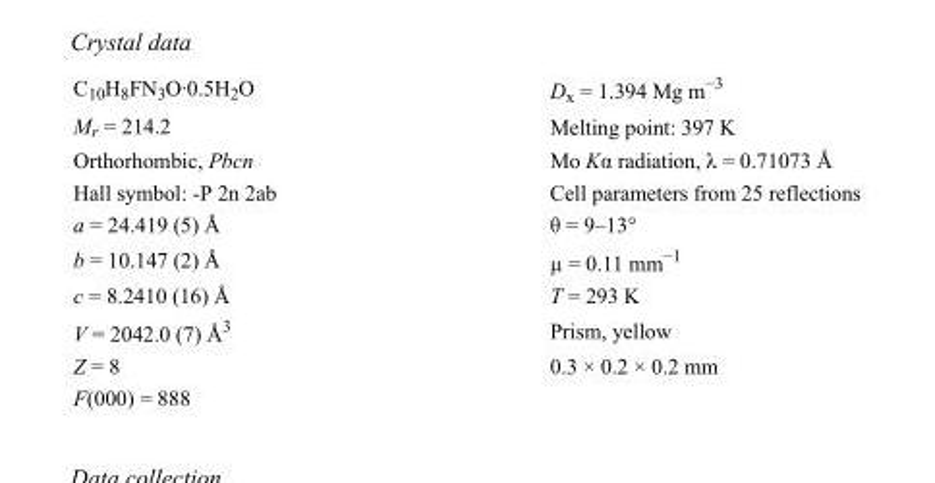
<table><tbody><tr><td>C<sub>10</sub>H<sub>8</sub>FN<sub>3</sub>O·0.5H<sub>2</sub>O</td><td>D<sub>x</sub> = 1.394 Mg m<sup>−3</sup></td></tr><tr><td>M<sub>r</sub> = 214.2</td><td>Melting point: 397 K</td></tr><tr><td>Orthorhombic, Pbcn</td><td>Mo Kα radiation, λ = 0.71073 Å</td></tr><tr><td>Hall symbol: -P 2n 2ab</td><td>Cell parameters from 25 reflections</td></tr><tr><td>a = 24.419 (5) Å</td><td>θ = 9–13°</td></tr><tr><td>b = 10.147 (2) Å</td><td>µ = 0.11 mm<sup>−1</sup></td></tr><tr><td>c = 8.2410 (16) Å</td><td>T = 293 K</td></tr><tr><td>V = 2042.0 (7) Å<sup>3</sup></td><td>Prism, yellow</td></tr><tr><td>Z = 8</td><td>0.3 × 0.2 × 0.2 mm</td></tr><tr><td>F(000) = 888</td><td></td></tr></tbody></table>